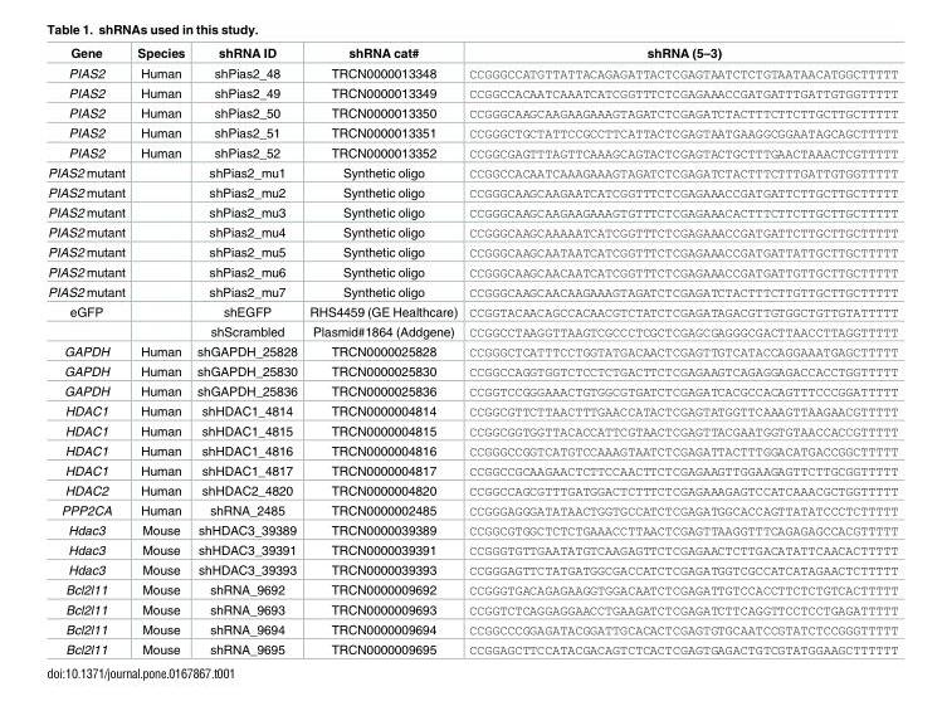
<table><thead><tr><td>Gene</td><td>Species</td><td>shRNA ID</td><td>shRNA cat#</td><td>shRNA (5–3)</td></tr></thead><tbody><tr><td>PIAS2</td><td>Human</td><td>shPias2_48</td><td>TRCN0000013348</td><td>CCGGGCCATGTTATTACAGAGATTACTCGAGTAATCTCTGTAATAACATGGCTTTTT</td></tr><tr><td>PIAS2</td><td>Human</td><td>shPias2_49</td><td>TRCN0000013349</td><td>CCGGCCACAATCAAATCATCGGTTTCTCGAGAAACCGATGATTTGATTGTGGTTTTT</td></tr><tr><td>PIAS2</td><td>Human</td><td>shPias2_50</td><td>TRCN0000013350</td><td>CCGGGCAAGCAAGAAGAAAGTAGATCTCGAGATCTACTTTCTTCTTGCTTGCTTTTT</td></tr><tr><td>PIAS2</td><td>Human</td><td>shPias2_51</td><td>TRCN0000013351</td><td>CCGGGCTGCTATTCCGCCTTCATTACTCGAGTAATGAAGGCGGAATAGCAGCTTTTT</td></tr><tr><td>PIAS2</td><td>Human</td><td>shPias2_52</td><td>TRCN0000013352</td><td>CCGGCGAGTTTAGTTCAAAGCAGTACTCGAGTACTGCTTTGAACTAAACTCGTTTTT</td></tr><tr><td>PIAS2 mutant</td><td></td><td>shPias2_mu1</td><td>Synthetic oligo</td><td>CCGGCCACAATCAAAGAAAGTAGATCTCGAGATCTACTTTCTTTGATTGTGGTTTTT</td></tr><tr><td>PIAS2 mutant</td><td></td><td>shPias2_mu2</td><td>Synthetic oligo</td><td>CCGGGCAAGCAAGAATCATCGGTTTCTCGAGAAACCGATGATTCTTGCTTGCTTTTT</td></tr><tr><td>PIAS2 mutant</td><td></td><td>shPias2_mu3</td><td>Synthetic oligo</td><td>CCGGGCAAGCAAGAAGAAAGTGTTTCTCGAGAAACACTTTCTTCTTGCTTGCTTTTT</td></tr><tr><td>PIAS2 mutant</td><td></td><td>shPias2_mu4</td><td>Synthetic oligo</td><td>CCGGGCAAGCAAAAATCATCGGTTTCTCGAGAAACCGATGATTCTTGCTTGCTTTTT</td></tr><tr><td>PIAS2 mutant</td><td></td><td>shPias2_mu5</td><td>Synthetic oligo</td><td>CCGGGCAAGCAATAATCATCGGTTTCTCGAGAAACCGATGATTATTGCTTGCTTTTT</td></tr><tr><td>PIAS2 mutant</td><td></td><td>shPias2_mu6</td><td>Synthetic oligo</td><td>CCGGGCAAGCAACAATCATCGGTTTCTCGAGAAACCGATGATTGTTGCTTGCTTTTT</td></tr><tr><td>PIAS2 mutant</td><td></td><td>shPias2_mu7</td><td>Synthetic oligo</td><td>CCGGGCAAGCAACAAGAAAGTAGATCTCGAGATCTACTTTCTTGTTGCTTGCTTTTT</td></tr><tr><td rowspan="2">eGFP</td><td></td><td>shEGFP</td><td>RHS4459 (GE Healthcare)</td><td>CCGGTACAACAGCCACAACGTCTATCTCGAGATAGACGTTGTGGCTGTTGTATTTTT</td></tr><tr><td></td><td>shScrambled</td><td>Plasmid#1864 (Addgene)</td><td>CCGGCCTAAGGTTAAGTCGCCCTCGCTCGAGCGAGGGCGACTTAACCTTAGGTTTTT</td></tr><tr><td>GAPDH</td><td>Human</td><td>shGAPDH_25828</td><td>TRCN0000025828</td><td>CCGGGCTCATTTCCTGGTATGACAACTCGAGTTGTCATACCAGGAAATGAGCTTTTT</td></tr><tr><td>GAPDH</td><td>Human</td><td>shGAPDH_25830</td><td>TRCN0000025830</td><td>CCGGCCAGGTGGTCTCCTCTGACTTCTCGAGAAGTCAGAGGAGACCACCTGGTTTTT</td></tr><tr><td>GAPDH</td><td>Human</td><td>shGAPDH_25836</td><td>TRCN0000025836</td><td>CCGGTCCGGGAAACTGTGGCGTGATCTCGAGATCACGCCACAGTTTCCCGGATTTTT</td></tr><tr><td>HDAC1</td><td>Human</td><td>shHDAC1_4814</td><td>TRCN0000004814</td><td>CCGGCGTTCTTAACTTTGAACCATACTCGAGTATGGTTCAAAGTTAAGAACGTTTTT</td></tr><tr><td>HDAC1</td><td>Human</td><td>shHDAC1_4815</td><td>TRCN0000004815</td><td>CCGGCGGTGGTTACACCATTCGTAACTCGAGTTACGAATGGTGTAACCACCGTTTTT</td></tr><tr><td>HDAC1</td><td>Human</td><td>shHDAC1_4816</td><td>TRCN0000004816</td><td>CCGGGCCGGTCATGTCCAAAGTAATCTCGAGATTACTTTGGACATGACCGGCTTTTT</td></tr><tr><td>HDAC1</td><td>Human</td><td>shHDAC1_4817</td><td>TRCN0000004817</td><td>CCGGCCGCAAGAACTCTTCCAACTTCTCGAGAAGTTGGAAGAGTTCTTGCGGTTTTT</td></tr><tr><td>HDAC2</td><td>Human</td><td>shHDAC2_4820</td><td>TRCN0000004820</td><td>CCGGCCAGCGTTTGATGGACTCTTTCTCGAGAAAGAGTCCATCAAACGCTGGTTTTT</td></tr><tr><td>PPP2CA</td><td>Human</td><td>shRNA_2485</td><td>TRCN0000002485</td><td>CCGGGAGGGATATAACTGGTGCCATCTCGAGATGGCACCAGTTATATCCCTCTTTTT</td></tr><tr><td>Hdac3</td><td>Mouse</td><td>shHDAC3_39389</td><td>TRCN0000039389</td><td>CCGGCGTGGCTCTCTGAAACCTTAACTCGAGTTAAGGTTTCAGAGAGCCACGTTTTT</td></tr><tr><td>Hdac3</td><td>Mouse</td><td>shHDAC3_39391</td><td>TRCN0000039391</td><td>CCGGGTGTTGAATATGTCAAGAGTTCTCGAGAACTCTTGACATATTCAACACTTTTT</td></tr><tr><td>Hdac3</td><td>Mouse</td><td>shHDAC3_39393</td><td>TRCN0000039393</td><td>CCGGGAGTTCTATGATGGCGACCATCTCGAGATGGTCGCCATCATAGAACTCTTTTT</td></tr><tr><td>Bcl2l11</td><td>Mouse</td><td>shRNA_9692</td><td>TRCN0000009692</td><td>CCGGGTGACAGAGAAGGTGGACAATCTCGAGATTGTCCACCTTCTCTGTCACTTTTT</td></tr><tr><td>Bcl2l11</td><td>Mouse</td><td>shRNA_9693</td><td>TRCN0000009693</td><td>CCGGTCTCAGGAGGAACCTGAAGATCTCGAGATCTTCAGGTTCCTCCTGAGATTTTT</td></tr><tr><td>Bcl2l11</td><td>Mouse</td><td>shRNA_9694</td><td>TRCN0000009694</td><td>CCGGCCCGGAGATACGGATTGCACACTCGAGTGTGCAATCCGTATCTCCGGGTTTTT</td></tr><tr><td>Bcl2l11</td><td>Mouse</td><td>shRNA_9695</td><td>TRCN0000009695</td><td>CCGGAGCTTCCATACGACAGTCTCACTCGAGTGAGACTGTCGTATGGAAGCTTTTTT</td></tr></tbody></table>